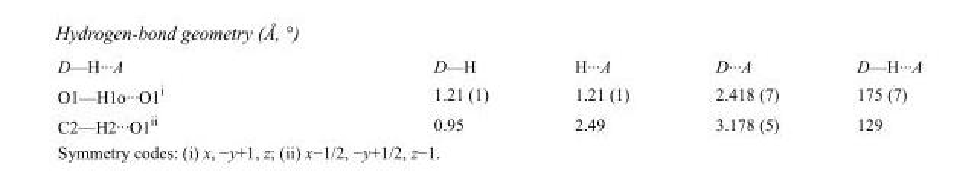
<table><tbody><tr><td>D—H···A</td><td>D—H</td><td>H···A</td><td>D···A</td><td>D—H···A</td></tr><tr><td>O1—H1o···O1<sup>i</sup></td><td>1.21 (1)</td><td>1.21 (1)</td><td>2.418 (7)</td><td>175 (7)</td></tr><tr><td>C2—H2···O1<sup>ii</sup></td><td>0.95</td><td>2.49</td><td>3.178 (5)</td><td>129</td></tr></tbody></table>